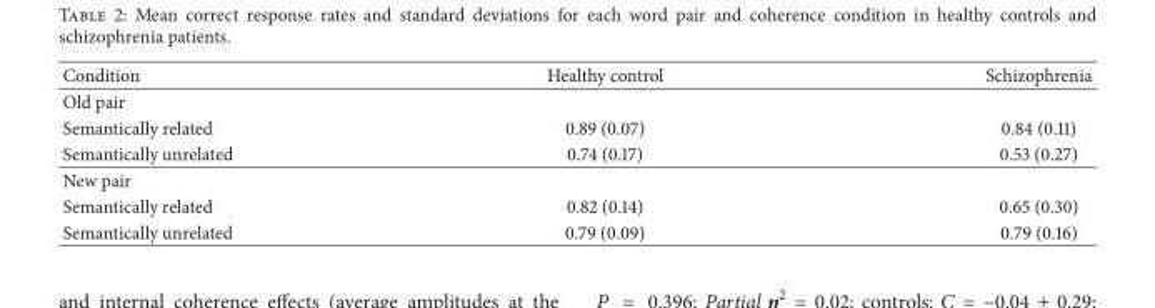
<table><thead><tr><td>Condition</td><td>Healthy control</td><td>Schizophrenia</td></tr></thead><tbody><tr><td colspan="3">Old pair</td></tr><tr><td>Semantically related</td><td>0.89 (0.07)</td><td>0.84 (0.11)</td></tr><tr><td>Semantically unrelated</td><td>0.74 (0.17)</td><td>0.53 (0.27)</td></tr><tr><td colspan="3">New pair</td></tr><tr><td>Semantically related</td><td>0.82 (0.14)</td><td>0.65 (0.30)</td></tr><tr><td>Semantically unrelated</td><td>0.79 (0.09)</td><td>0.79 (0.16)</td></tr></tbody></table>